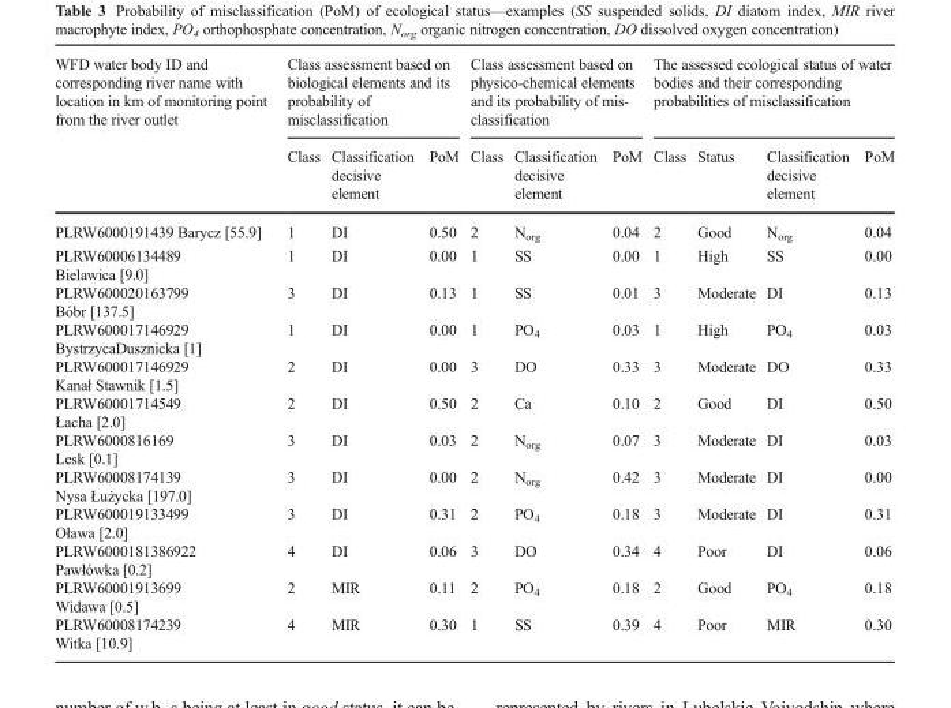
<table><thead><tr><td rowspan="2">WFD water body ID and corresponding river name with location in km of monitoring point from the river outlet</td><td colspan="3">Class assessment based on biological elements and its probability of misclassification</td><td colspan="3">Class assessment based on physico-chemical elements and its probability of mis- classification</td><td colspan="4">The assessed ecological status of water bodies and their corresponding probabilities of misclassification</td></tr><tr><td>Class</td><td>Classification decisive element</td><td>PoM</td><td>Class</td><td>Classification decisive element</td><td>PoM</td><td>Class</td><td>Status</td><td>Classification decisive element</td><td>PoM</td></tr></thead><tbody><tr><td>PLRW6000191439 Barycz [55.9]</td><td>1</td><td>DI</td><td>0.50</td><td>2</td><td>N<sub>org</sub></td><td>0.04</td><td>2</td><td>Good</td><td>N<sub>org</sub></td><td>0.04</td></tr><tr><td>PLRW60006134489 Bielawica [9.0]</td><td>1</td><td>DI</td><td>0.00</td><td>1</td><td>SS</td><td>0.00</td><td>1</td><td>High</td><td>SS</td><td>0.00</td></tr><tr><td>PLRW600020163799 Bóbr [137.5]</td><td>3</td><td>DI</td><td>0.13</td><td>1</td><td>SS</td><td>0.01</td><td>3</td><td>Moderate</td><td>DI</td><td>0.13</td></tr><tr><td>PLRW600017146929 BystrzycaDusznicka [1]</td><td>1</td><td>DI</td><td>0.00</td><td>1</td><td>PO<sub>4</sub></td><td>0.03</td><td>1</td><td>High</td><td>PO<sub>4</sub></td><td>0.03</td></tr><tr><td>PLRW600017146929 Kanał Stawnik [1.5]</td><td>2</td><td>DI</td><td>0.00</td><td>3</td><td>DO</td><td>0.33</td><td>3</td><td>Moderate</td><td>DO</td><td>0.33</td></tr><tr><td>PLRW60001714549 Łacha [2.0]</td><td>2</td><td>DI</td><td>0.50</td><td>2</td><td>Ca</td><td>0.10</td><td>2</td><td>Good</td><td>DI</td><td>0.50</td></tr><tr><td>PLRW6000816169 Lesk [0.1]</td><td>3</td><td>DI</td><td>0.03</td><td>2</td><td>N<sub>org</sub></td><td>0.07</td><td>3</td><td>Moderate</td><td>DI</td><td>0.03</td></tr><tr><td>PLRW60008174139 Nysa Łużycka [197.0]</td><td>3</td><td>DI</td><td>0.00</td><td>2</td><td>N<sub>org</sub></td><td>0.42</td><td>3</td><td>Moderate</td><td>DI</td><td>0.00</td></tr><tr><td>PLRW600019133499 Oława [2.0]</td><td>3</td><td>DI</td><td>0.31</td><td>2</td><td>PO<sub>4</sub></td><td>0.18</td><td>3</td><td>Moderate</td><td>DI</td><td>0.31</td></tr><tr><td>PLRW6000181386922 Pawłówka [0.2]</td><td>4</td><td>DI</td><td>0.06</td><td>3</td><td>DO</td><td>0.34</td><td>4</td><td>Poor</td><td>DI</td><td>0.06</td></tr><tr><td>PLRW60001913699 Widawa [0.5]</td><td>2</td><td>MIR</td><td>0.11</td><td>2</td><td>PO<sub>4</sub></td><td>0.18</td><td>2</td><td>Good</td><td>PO<sub>4</sub></td><td>0.18</td></tr><tr><td>PLRW60008174239 Witka [10.9]</td><td>4</td><td>MIR</td><td>0.30</td><td>1</td><td>SS</td><td>0.39</td><td>4</td><td>Poor</td><td>MIR</td><td>0.30</td></tr></tbody></table>